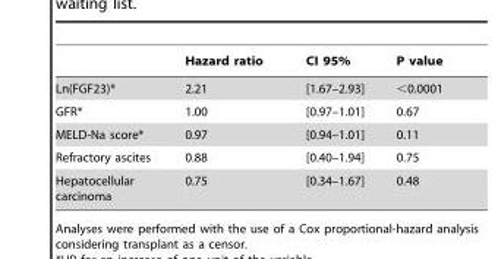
<table><thead><tr><td></td><td>Hazard ratio</td><td>CI 95%</td><td>P value</td></tr></thead><tbody><tr><td>Ln(FGF23)*</td><td>2.21</td><td>[1.67–2.93]</td><td>&lt;0.0001</td></tr><tr><td>GFR*</td><td>1.00</td><td>[0.97–1.01]</td><td>0.67</td></tr><tr><td>MELD-Na score*</td><td>0.97</td><td>[0.94–1.01]</td><td>0.11</td></tr><tr><td>Refractory ascites</td><td>0.88</td><td>[0.40–1.94]</td><td>0.75</td></tr><tr><td>Hepatocellular carcinoma</td><td>0.75</td><td>[0.34–1.67]</td><td>0.48</td></tr></tbody></table>